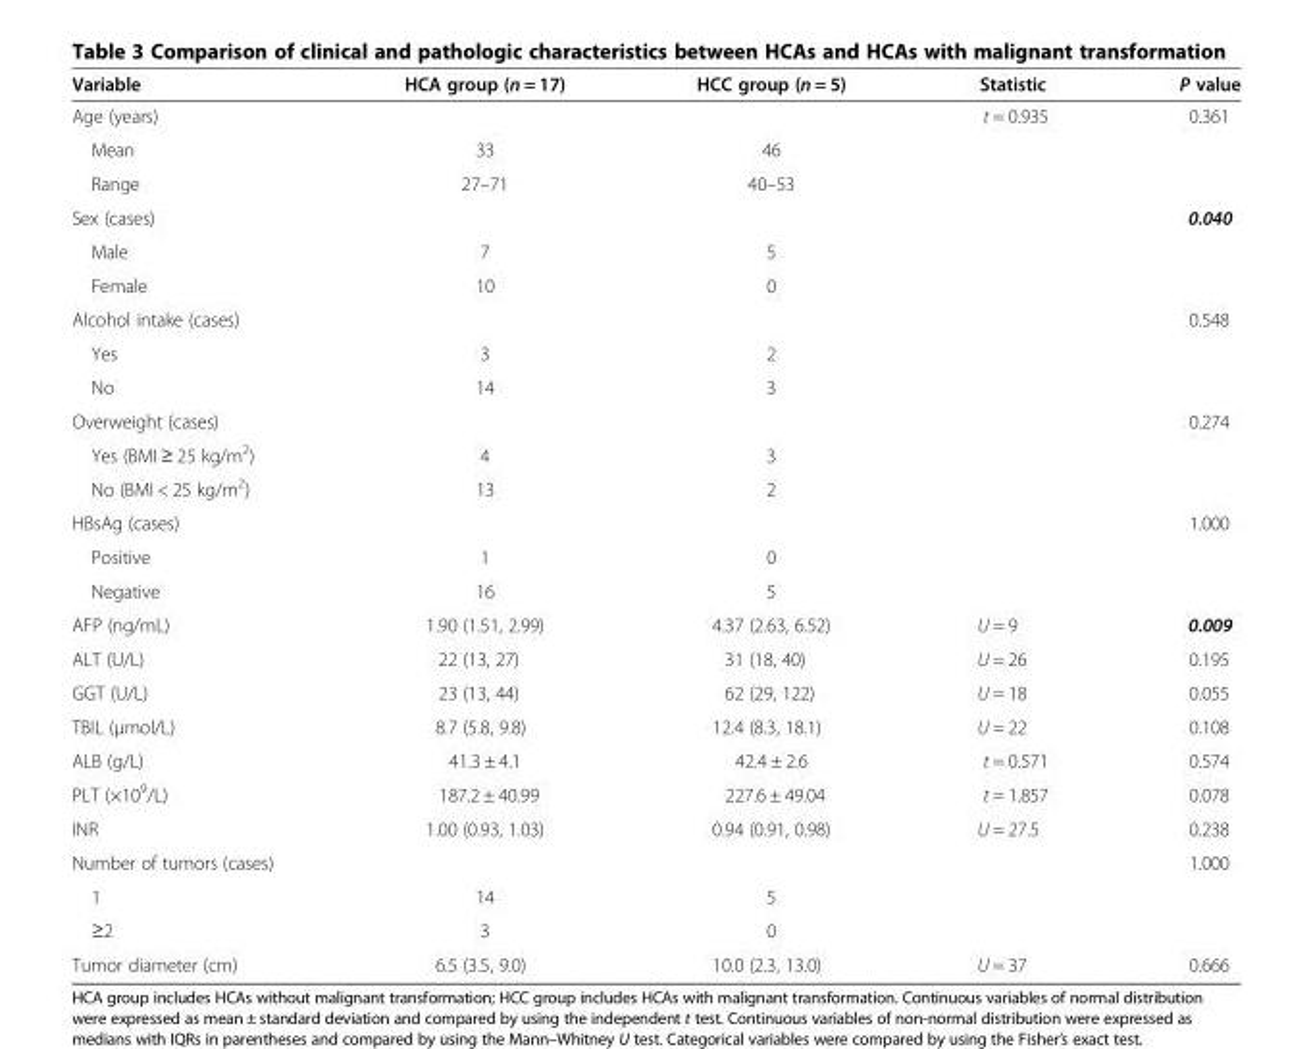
<table><thead><tr><td>Variable</td><td>HCA group (n = 17)</td><td>HCC group (n = 5)</td><td>Statistic</td><td>P value</td></tr></thead><tbody><tr><td>Age (years)</td><td></td><td></td><td>t = 0.935</td><td>0.361</td></tr><tr><td>Mean</td><td>33</td><td>46</td><td></td><td></td></tr><tr><td>Range</td><td>27–71</td><td>40–53</td><td></td><td></td></tr><tr><td>Sex (cases)</td><td></td><td></td><td></td><td>0.040</td></tr><tr><td>Male</td><td>7</td><td>5</td><td></td><td></td></tr><tr><td>Female</td><td>10</td><td>0</td><td></td><td></td></tr><tr><td>Alcohol intake (cases)</td><td></td><td></td><td></td><td>0.548</td></tr><tr><td>Yes</td><td>3</td><td>2</td><td></td><td></td></tr><tr><td>No</td><td>14</td><td>3</td><td></td><td></td></tr><tr><td>Overweight (cases)</td><td></td><td></td><td></td><td>0.274</td></tr><tr><td>Yes (BMI ≥ 25 kg/m<sup>2</sup>)</td><td>4</td><td>3</td><td></td><td></td></tr><tr><td>No (BMI &lt; 25 kg/m<sup>2</sup>)</td><td>13</td><td>2</td><td></td><td></td></tr><tr><td>HBsAg (cases)</td><td></td><td></td><td></td><td>1.000</td></tr><tr><td>Positive</td><td>1</td><td>0</td><td></td><td></td></tr><tr><td>Negative</td><td>16</td><td>5</td><td></td><td></td></tr><tr><td>AFP (ng/mL)</td><td>1.90 (1.51, 2.99)</td><td>4.37 (2.63, 6.52)</td><td>U = 9</td><td>0.009</td></tr><tr><td>ALT (U/L)</td><td>22 (13, 27)</td><td>31 (18, 40)</td><td>U = 26</td><td>0.195</td></tr><tr><td>GGT (U/L)</td><td>23 (13, 44)</td><td>62 (29, 122)</td><td>U = 18</td><td>0.055</td></tr><tr><td>TBIL (μmol/L)</td><td>8.7 (5.8, 9.8)</td><td>12.4 (8.3, 18.1)</td><td>U = 22</td><td>0.108</td></tr><tr><td>ALB (g/L)</td><td>41.3 ± 4.1</td><td>42.4 ± 2.6</td><td>t = 0.571</td><td>0.574</td></tr><tr><td>PLT (×10<sup>9</sup>/L)</td><td>187.2 ± 40.99</td><td>227.6 ± 49.04</td><td>t = 1.857</td><td>0.078</td></tr><tr><td>INR</td><td>1.00 (0.93, 1.03)</td><td>0.94 (0.91, 0.98)</td><td>U = 27.5</td><td>0.238</td></tr><tr><td>Number of tumors (cases)</td><td></td><td></td><td></td><td>1.000</td></tr><tr><td>1</td><td>14</td><td>5</td><td></td><td></td></tr><tr><td>≥2</td><td>3</td><td>0</td><td></td><td></td></tr><tr><td>Tumor diameter (cm)</td><td>6.5 (3.5, 9.0)</td><td>10.0 (2.3, 13.0)</td><td>U = 37</td><td>0.666</td></tr></tbody></table>